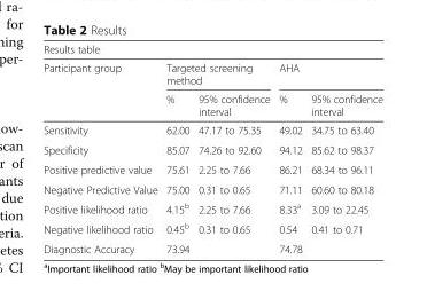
<table><thead><tr><td colspan="5">Results table</td></tr><tr><td rowspan="2">Participant group</td><td colspan="2">Targeted screening method</td><td colspan="2">AHA</td></tr><tr><td>%</td><td>95% confidence interval</td><td>%</td><td>95% confidence interval</td></tr></thead><tbody><tr><td>Sensitivity</td><td>62.00</td><td>47.17 to 75.35</td><td>49.02</td><td>34.75 to 63.40</td></tr><tr><td>Specificity</td><td>85.07</td><td>74.26 to 92.60</td><td>94.12</td><td>85.62 to 98.37</td></tr><tr><td>Positive predictive value</td><td>75.61</td><td>2.25 to 7.66</td><td>86.21</td><td>68.34 to 96.11</td></tr><tr><td>Negative Predictive Value</td><td>75.00</td><td>0.31 to 0.65</td><td>71.11</td><td>60.60 to 80.18</td></tr><tr><td>Positive likelihood ratio</td><td>4.15<sup>b</sup></td><td>2.25 to 7.66</td><td>8.33<sup>a</sup></td><td>3.09 to 22.45</td></tr><tr><td>Negative likelihood ratio</td><td>0.45<sup>b</sup></td><td>0.31 to 0.65</td><td>0.54</td><td>0.41 to 0.71</td></tr><tr><td>Diagnostic Accuracy</td><td>73.94</td><td></td><td>74.78</td><td></td></tr></tbody></table>